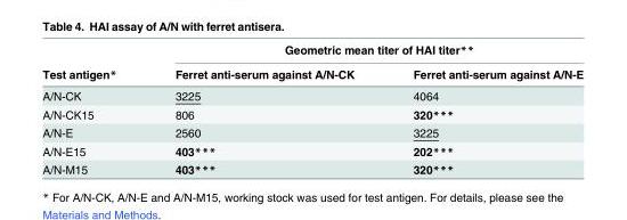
<table><thead><tr><td rowspan="2">Test antigen*</td><td colspan="2">Geometric mean titer of HAI titer**</td></tr><tr><td>Ferret anti-serum against A/N-CK</td><td>Ferret anti-serum against A/N-E</td></tr></thead><tbody><tr><td>A/N-CK</td><td>3225</td><td>4064</td></tr><tr><td>A/N-CK15</td><td>806</td><td>320***</td></tr><tr><td>A/N-E</td><td>2560</td><td>3225</td></tr><tr><td>A/N-E15</td><td>403***</td><td>202***</td></tr><tr><td>A/N-M15</td><td>403***</td><td>320***</td></tr></tbody></table>